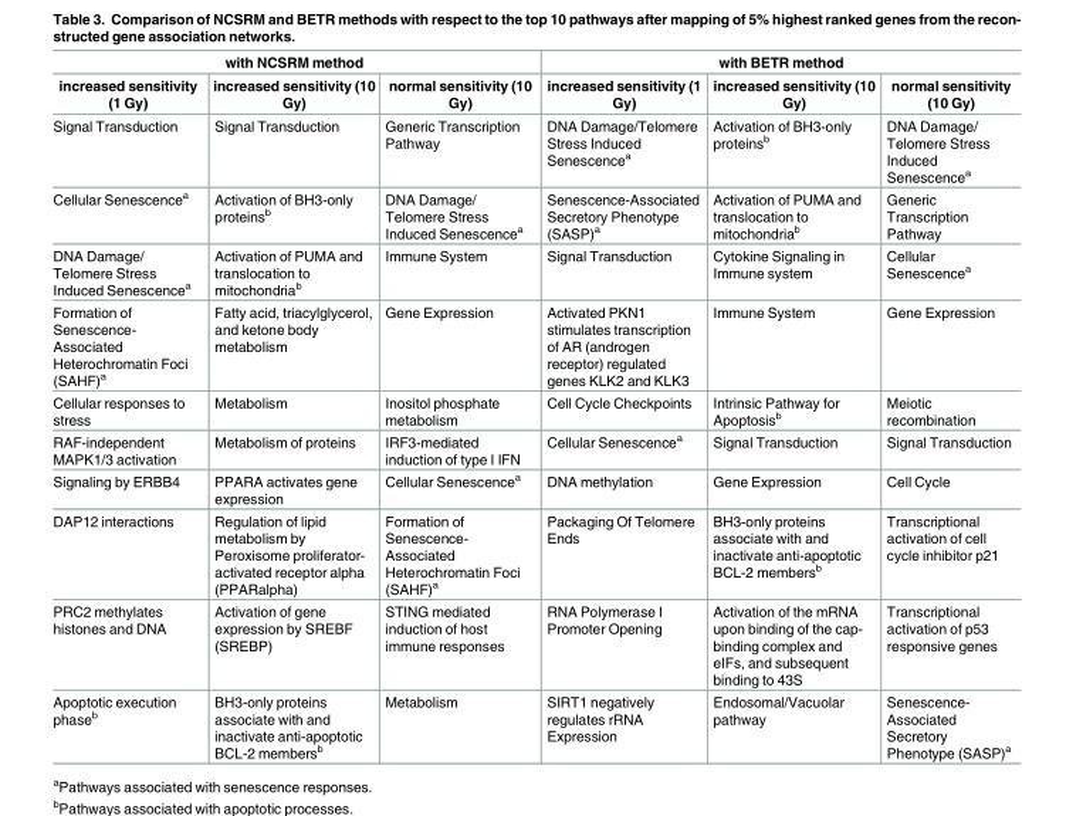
<table><thead><tr><td colspan="3">with NCSRM method</td><td colspan="3">with BETR method</td></tr><tr><td>increased sensitivity (1 Gy)</td><td>increased sensitivity (10 Gy)</td><td>normal sensitivity (10 Gy)</td><td>increased sensitivity (1 Gy)</td><td>increased sensitivity (10 Gy)</td><td>normal sensitivity (10 Gy)</td></tr></thead><tbody><tr><td>Signal Transduction</td><td>Signal Transduction</td><td>Generic Transcription Pathway</td><td>DNA Damage/Telomere Stress Induced Senescence<sup>a</sup></td><td>Activation of BH3-only proteins<sup>b</sup></td><td>DNA Damage/ Telomere Stress Induced Senescence<sup>a</sup></td></tr><tr><td>Cellular Senescence<sup>a</sup></td><td>Activation of BH3-only proteins<sup>b</sup></td><td>DNA Damage/ Telomere Stress Induced Senescence<sup>a</sup></td><td>Senescence-Associated Secretory Phenotype (SASP)<sup>a</sup></td><td>Activation of PUMA and translocation to mitochondria<sup>b</sup></td><td>Generic Transcription Pathway</td></tr><tr><td>DNA Damage/ Telomere Stress Induced Senescence<sup>a</sup></td><td>Activation of PUMA and translocation to mitochondria<sup>b</sup></td><td>Immune System</td><td>Signal Transduction</td><td>Cytokine Signaling in Immune system</td><td>Cellular Senescence<sup>a</sup></td></tr><tr><td>Formation of Senescence- Associated Heterochromatin Foci (SAHF)<sup>a</sup></td><td>Fatty acid, triacylglycerol, and ketone body metabolism</td><td>Gene Expression</td><td>Activated PKN1 stimulates transcription of AR (androgen receptor) regulated genes KLK2 and KLK3</td><td>Immune System</td><td>Gene Expression</td></tr><tr><td>Cellular responses to stress</td><td>Metabolism</td><td>Inositol phosphate metabolism</td><td>Cell Cycle Checkpoints</td><td>Intrinsic Pathway for Apoptosis<sup>b</sup></td><td>Meiotic recombination</td></tr><tr><td>RAF-independent MAPK1/3 activation</td><td>Metabolism of proteins</td><td>IRF3-mediated induction of type I IFN</td><td>Cellular Senescence<sup>a</sup></td><td>Signal Transduction</td><td>Signal Transduction</td></tr><tr><td>Signaling by ERBB4</td><td>PPARA activates gene expression</td><td>Cellular Senescence<sup>a</sup></td><td>DNA methylation</td><td>Gene Expression</td><td>Cell Cycle</td></tr><tr><td>DAP12 interactions</td><td>Regulation of lipid metabolism by Peroxisome proliferator- activated receptor alpha (PPARalpha)</td><td>Formation of Senescence- Associated Heterochromatin Foci (SAHF)<sup>a</sup></td><td>Packaging Of Telomere Ends</td><td>BH3-only proteins associate with and inactivate anti-apoptotic BCL-2 members<sup>b</sup></td><td>Transcriptional activation of cell cycle inhibitor p21</td></tr><tr><td>PRC2 methylates histones and DNA</td><td>Activation of gene expression by SREBF (SREBP)</td><td>STING mediated induction of host immune responses</td><td>RNA Polymerase I Promoter Opening</td><td>Activation of the mRNA upon binding of the cap- binding complex and eIFs, and subsequent binding to 43S</td><td>Transcriptional activation of p53 responsive genes</td></tr><tr><td>Apoptotic execution phase<sup>b</sup></td><td>BH3-only proteins associate with and inactivate anti-apoptotic BCL-2 members<sup>b</sup></td><td>Metabolism</td><td>SIRT1 negatively regulates rRNA Expression</td><td>Endosomal/Vacuolar pathway</td><td>Senescence- Associated Secretory Phenotype (SASP)<sup>a</sup></td></tr></tbody></table>